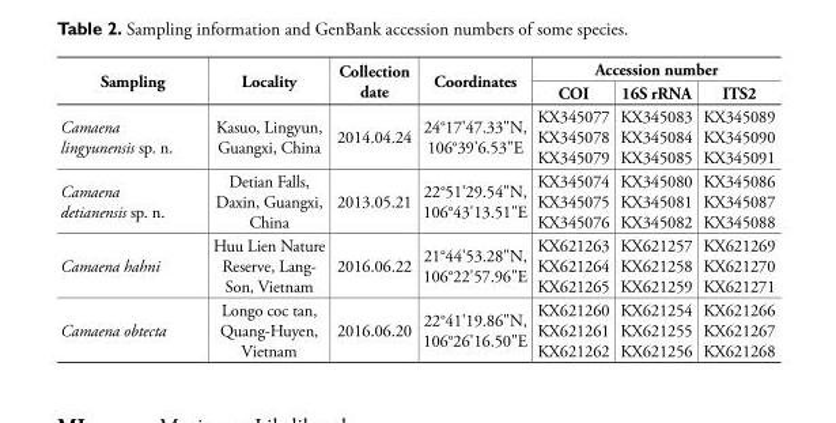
<table><thead><tr><td rowspan="2">Sampling</td><td rowspan="2">Locality</td><td rowspan="2">Collection date</td><td rowspan="2">Coordinates</td><td colspan="3">Accession number</td></tr><tr><td>COI</td><td>16S rRNA</td><td>ITS2</td></tr></thead><tbody><tr><td>Camaena lingyunensis sp. n.</td><td>Kasuo, Lingyun, Guangxi, China</td><td>2014.04.24</td><td>24°17&#x27;47.33&quot;N, 106°39&#x27;6.53&quot;E</td><td>KX345077 KX345078 KX345079</td><td>KX345083 KX345084 KX345085</td><td>KX345089 KX345090 KX345091</td></tr><tr><td>Camaena detianensis sp. n.</td><td>Detian Falls, Daxin, Guangxi, China</td><td>2013.05.21</td><td>22°51&#x27;29.54&quot;N, 106°43&#x27;13.51&quot;E</td><td>KX345074 KX345075 KX345076</td><td>KX345080 KX345081 KX345082</td><td>KX345086 KX345087 KX345088</td></tr><tr><td>Camaena hahni</td><td>Huu Lien Nature Reserve, Lang- Son, Vietnam</td><td>2016.06.22</td><td>21°44&#x27;53.28&quot;N, 106°22&#x27;57.96&quot;E</td><td>KX621263 KX621264 KX621265</td><td>KX621257 KX621258 KX621259</td><td>KX621269 KX621270 KX621271</td></tr><tr><td>Camaena obtecta</td><td>Longo coc tan, Quang-Huyen, Vietnam</td><td>2016.06.20</td><td>22°41&#x27;19.86&quot;N, 106°26&#x27;16.50&quot;E</td><td>KX621260 KX621261 KX621262</td><td>KX621254 KX621255 KX621256</td><td>KX621266 KX621267 KX621268</td></tr></tbody></table>